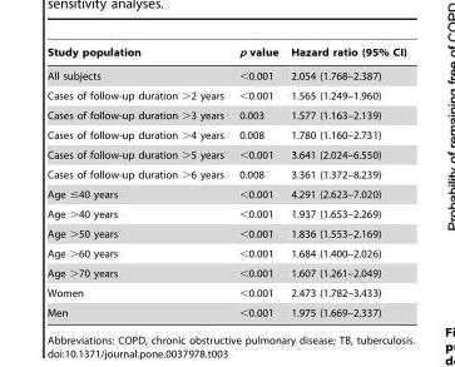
<table><thead><tr><td>Study population</td><td>p value</td><td>Hazard ratio (95% CI)</td></tr></thead><tbody><tr><td>All subjects</td><td>&lt;0.001</td><td>2.054 (1.768–2.387)</td></tr><tr><td>Cases of follow-up duration &gt;2 years</td><td>&lt;0.001</td><td>1.565 (1.249–1.960)</td></tr><tr><td>Cases of follow-up duration &gt;3 years</td><td>0.003</td><td>1.577 (1.163–2.139)</td></tr><tr><td>Cases of follow-up duration &gt;4 years</td><td>0.008</td><td>1.780 (1.160–2.731)</td></tr><tr><td>Cases of follow-up duration &gt;5 years</td><td>&lt;0.001</td><td>3.641 (2.024–6.550)</td></tr><tr><td>Cases of follow-up duration &gt;6 years</td><td>0.008</td><td>3.361 (1.372–8.239)</td></tr><tr><td>Age ≤40 years</td><td>&lt;0.001</td><td>4.291 (2.623–7.020)</td></tr><tr><td>Age &gt;40 years</td><td>&lt;0.001</td><td>1.937 (1.653–2.269)</td></tr><tr><td>Age &gt;50 years</td><td>&lt;0.001</td><td>1.836 (1.553–2.169)</td></tr><tr><td>Age &gt;60 years</td><td>&lt;0.001</td><td>1.684 (1.400–2.026)</td></tr><tr><td>Age &gt;70 years</td><td>&lt;0.001</td><td>1.607 (1.261–2.049)</td></tr><tr><td>Women</td><td>&lt;0.001</td><td>2.473 (1.782–3.433)</td></tr><tr><td>Men</td><td>&lt;0.001</td><td>1.975 (1.669–2.337)</td></tr></tbody></table>